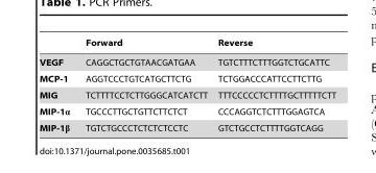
<table><thead><tr><td></td><td>Forward</td><td>Reverse</td></tr></thead><tbody><tr><td>VEGF</td><td>CAGGCTGCTGTAACGATGAA</td><td>TGTCTTTCTTTGGTCTGCATTC</td></tr><tr><td>MCP-1</td><td>AGGTCCCTGTCATGCTTCTG</td><td>TCTGGACCCATTCCTTCTTG</td></tr><tr><td>MIG</td><td>TCTTTTCCTCTTGGGCATCATCTT</td><td>TTTCCCCCTCTTTTGCTTTTTCTT</td></tr><tr><td>MIP-1α</td><td>TGCCCTTGCTGTTCTTCTCT</td><td>CCCAGGTCTCTTTGGAGTCA</td></tr><tr><td>MIP-1β</td><td>TGTCTGCCCTCTCTCTCCTC</td><td>GTCTGCCTCTTTTGGTCAGG</td></tr></tbody></table>